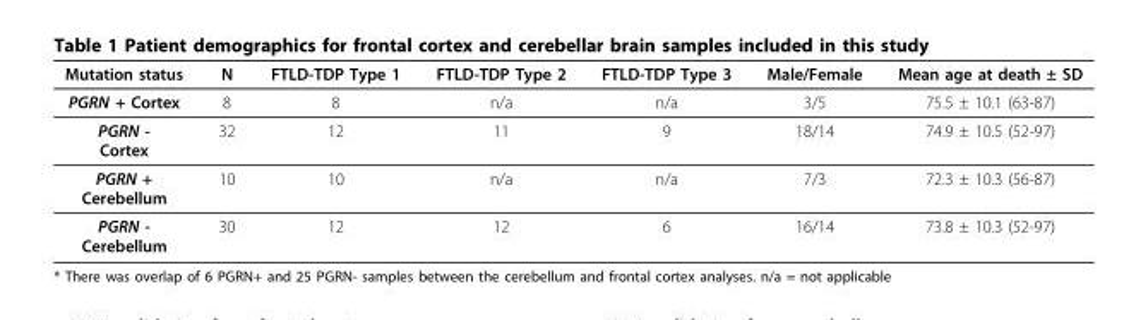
<table><thead><tr><td>Mutation status</td><td>N</td><td>FTLD-TDP Type 1</td><td>FTLD-TDP Type 2</td><td>FTLD-TDP Type 3</td><td>Male/Female</td><td>Mean age at death ± SD</td></tr></thead><tbody><tr><td>PGRN + Cortex</td><td>8</td><td>8</td><td>n/a</td><td>n/a</td><td>3/5</td><td>75.5 ± 10.1 (63-87)</td></tr><tr><td>PGRN - Cortex</td><td>32</td><td>12</td><td>11</td><td>9</td><td>18/14</td><td>74.9 ± 10.5 (52-97)</td></tr><tr><td>PGRN + Cerebellum</td><td>10</td><td>10</td><td>n/a</td><td>n/a</td><td>7/3</td><td>72.3 ± 10.3 (56-87)</td></tr><tr><td>PGRN - Cerebellum</td><td>30</td><td>12</td><td>12</td><td>6</td><td>16/14</td><td>73.8 ± 10.3 (52-97)</td></tr></tbody></table>